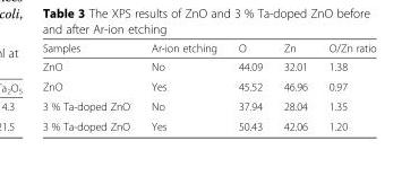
<table><thead><tr><td>Samples</td><td>Ar-ion etching</td><td>O</td><td>Zn</td><td>O/Zn ratio</td></tr></thead><tbody><tr><td>ZnO</td><td>No</td><td>44.09</td><td>32.01</td><td>1.38</td></tr><tr><td>ZnO</td><td>Yes</td><td>45.52</td><td>46.96</td><td>0.97</td></tr><tr><td>3 % Ta-doped ZnO</td><td>No</td><td>37.94</td><td>28.04</td><td>1.35</td></tr><tr><td>3 % Ta-doped ZnO</td><td>Yes</td><td>50.43</td><td>42.06</td><td>1.20</td></tr></tbody></table>